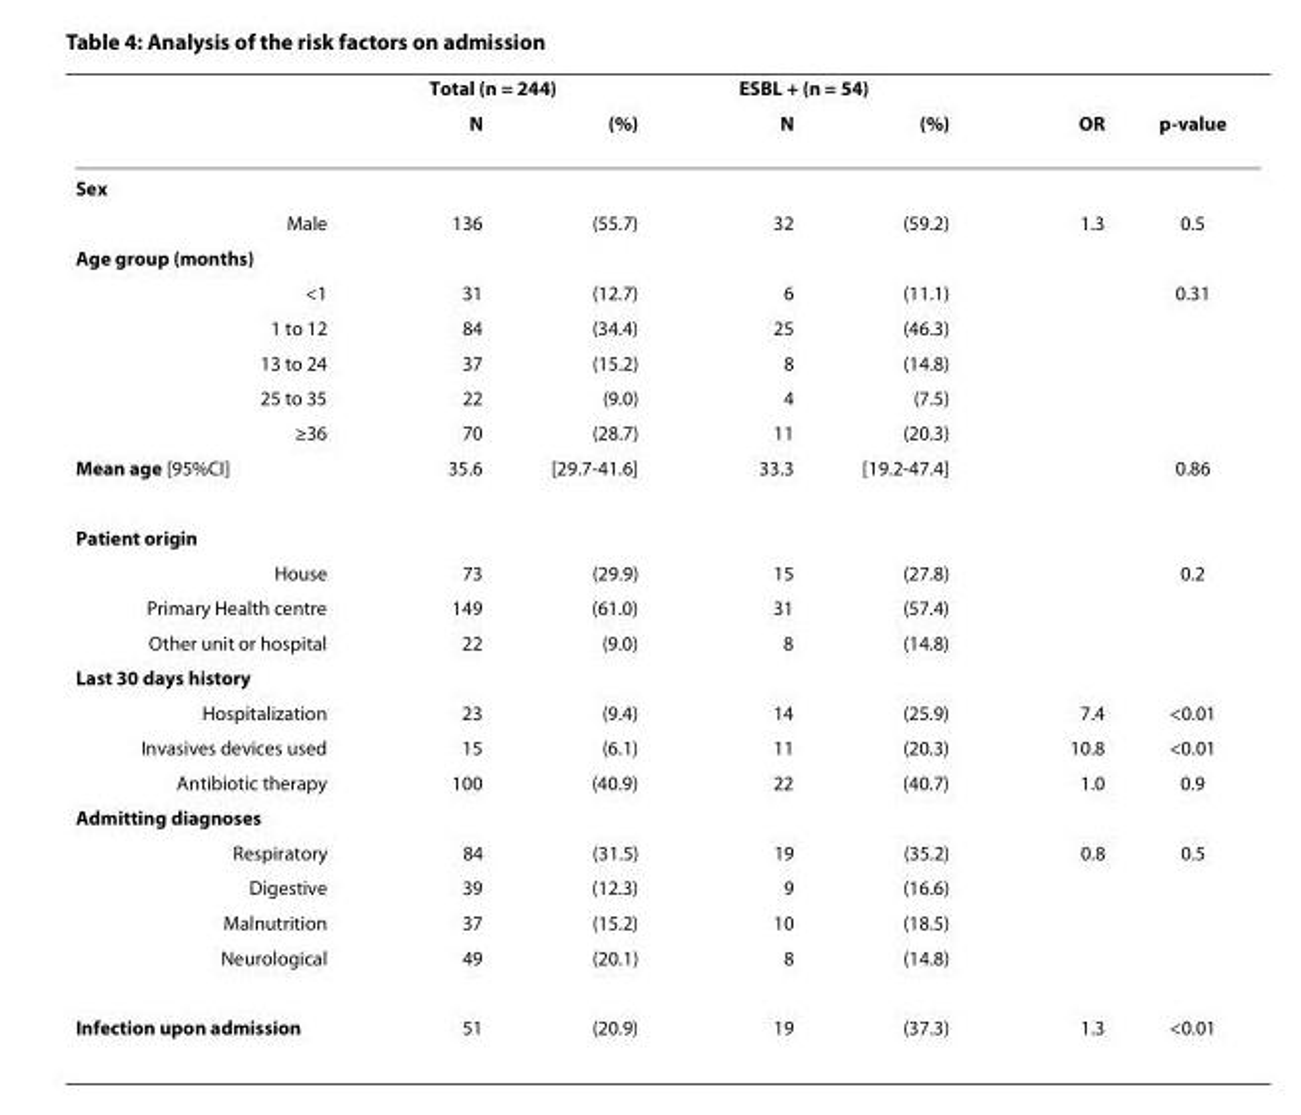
<table><thead><tr><td rowspan="2"></td><td colspan="2">Total (n = 244)</td><td colspan="2">ESBL + (n = 54)</td><td rowspan="2">OR</td><td rowspan="2">p-value</td></tr><tr><td>N</td><td>(%)</td><td>N</td><td>(%)</td></tr></thead><tbody><tr><td colspan="7">Sex</td></tr><tr><td>Male</td><td>136</td><td>(55.7)</td><td>32</td><td>(59.2)</td><td>1.3</td><td>0.5</td></tr><tr><td colspan="7">Age group (months)</td></tr><tr><td>&lt;1</td><td>31</td><td>(12.7)</td><td>6</td><td>(11.1)</td><td></td><td>0.31</td></tr><tr><td>1 to 12</td><td>84</td><td>(34.4)</td><td>25</td><td>(46.3)</td><td></td><td></td></tr><tr><td>13 to 24</td><td>37</td><td>(15.2)</td><td>8</td><td>(14.8)</td><td></td><td></td></tr><tr><td>25 to 35</td><td>22</td><td>(9.0)</td><td>4</td><td>(7.5)</td><td></td><td></td></tr><tr><td>≥36</td><td>70</td><td>(28.7)</td><td>11</td><td>(20.3)</td><td></td><td></td></tr><tr><td>Mean age [95%CI]</td><td>35.6</td><td>[29.7-41.6]</td><td>33.3</td><td>[19.2-47.4]</td><td></td><td>0.86</td></tr><tr><td colspan="7">Patient origin</td></tr><tr><td>House</td><td>73</td><td>(29.9)</td><td>15</td><td>(27.8)</td><td></td><td>0.2</td></tr><tr><td>Primary Health centre</td><td>149</td><td>(61.0)</td><td>31</td><td>(57.4)</td><td></td><td></td></tr><tr><td>Other unit or hospital</td><td>22</td><td>(9.0)</td><td>8</td><td>(14.8)</td><td></td><td></td></tr><tr><td colspan="7">Last 30 days history</td></tr><tr><td>Hospitalization</td><td>23</td><td>(9.4)</td><td>14</td><td>(25.9)</td><td>7.4</td><td>&lt;0.01</td></tr><tr><td>Invasives devices used</td><td>15</td><td>(6.1)</td><td>11</td><td>(20.3)</td><td>10.8</td><td>&lt;0.01</td></tr><tr><td>Antibiotic therapy</td><td>100</td><td>(40.9)</td><td>22</td><td>(40.7)</td><td>1.0</td><td>0.9</td></tr><tr><td colspan="7">Admitting diagnoses</td></tr><tr><td>Respiratory</td><td>84</td><td>(31.5)</td><td>19</td><td>(35.2)</td><td>0.8</td><td>0.5</td></tr><tr><td>Digestive</td><td>39</td><td>(12.3)</td><td>9</td><td>(16.6)</td><td></td><td></td></tr><tr><td>Malnutrition</td><td>37</td><td>(15.2)</td><td>10</td><td>(18.5)</td><td></td><td></td></tr><tr><td>Neurological</td><td>49</td><td>(20.1)</td><td>8</td><td>(14.8)</td><td></td><td></td></tr><tr><td>Infection upon admission</td><td>51</td><td>(20.9)</td><td>19</td><td>(37.3)</td><td>1.3</td><td>&lt;0.01</td></tr></tbody></table>